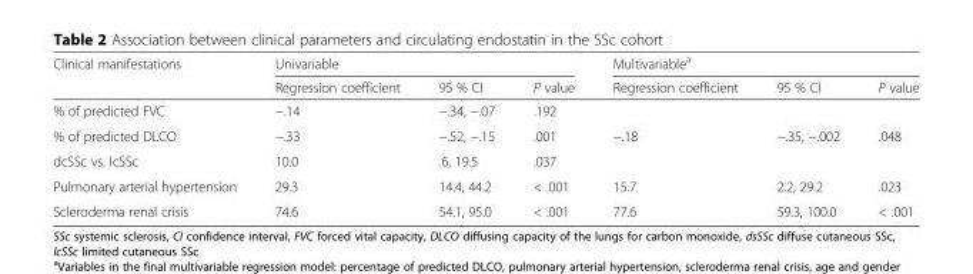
<table><thead><tr><td rowspan="2">Clinical manifestations</td><td colspan="3">Univariable</td><td colspan="3">Multivariable<sup>a</sup></td></tr><tr><td>Regression coefficient</td><td>95 % CI</td><td>P value</td><td>Regression coefficient</td><td>95 % CI</td><td>P value</td></tr></thead><tbody><tr><td>% of predicted FVC</td><td>−.14</td><td>−.34, −.07</td><td>.192</td><td></td><td></td><td></td></tr><tr><td>% of predicted DLCO</td><td>−.33</td><td>−.52, −.15</td><td>.001</td><td>−.18</td><td>−.35, −.002</td><td>.048</td></tr><tr><td>dcSSc vs. lcSSc</td><td>10.0</td><td>.6, 19.5</td><td>.037</td><td></td><td></td><td></td></tr><tr><td>Pulmonary arterial hypertension</td><td>29.3</td><td>14.4, 44.2</td><td>&lt; .001</td><td>15.7</td><td>2.2, 29.2</td><td>.023</td></tr><tr><td>Scleroderma renal crisis</td><td>74.6</td><td>54.1, 95.0</td><td>&lt; .001</td><td>77.6</td><td>59.3, 100.0</td><td>&lt; .001</td></tr></tbody></table>